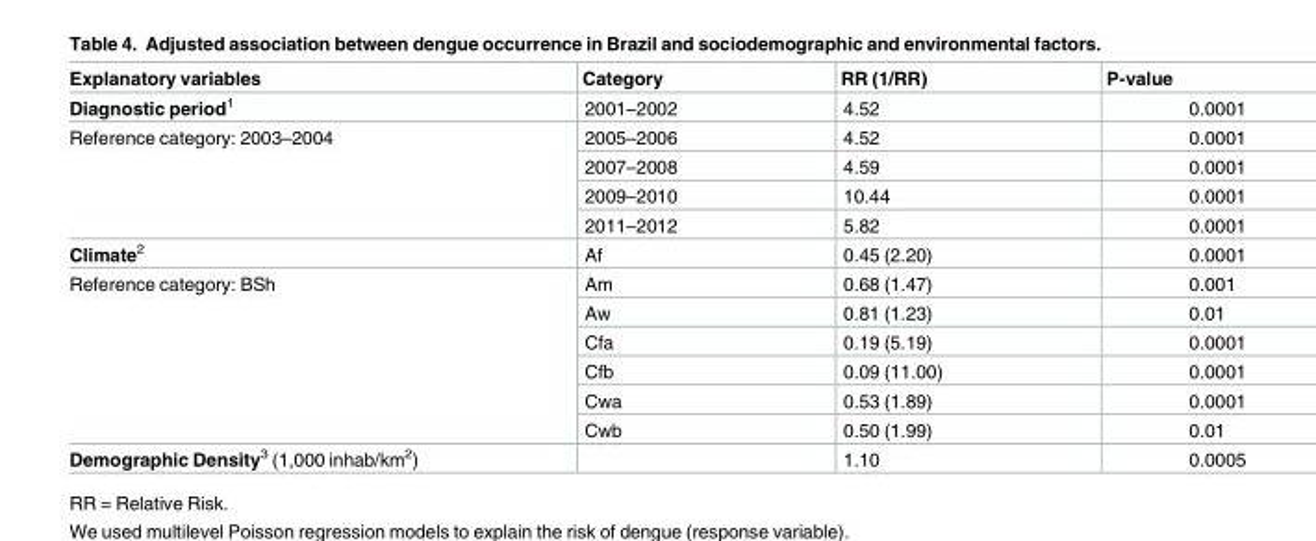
<table><thead><tr><td>Explanatory variables</td><td>Category</td><td>RR (1/RR)</td><td>P-value</td></tr></thead><tbody><tr><td>Diagnostic period<sup>1</sup></td><td>2001–2002</td><td>4.52</td><td>0.0001</td></tr><tr><td rowspan="4">Reference category: 2003–2004</td><td>2005–2006</td><td>4.52</td><td>0.0001</td></tr><tr><td>2007–2008</td><td>4.59</td><td>0.0001</td></tr><tr><td>2009–2010</td><td>10.44</td><td>0.0001</td></tr><tr><td>2011–2012</td><td>5.82</td><td>0.0001</td></tr><tr><td>Climate<sup>2</sup></td><td>Af</td><td>0.45 (2.20)</td><td>0.0001</td></tr><tr><td rowspan="6">Reference category: BSh</td><td>Am</td><td>0.68 (1.47)</td><td>0.001</td></tr><tr><td>Aw</td><td>0.81 (1.23)</td><td>0.01</td></tr><tr><td>Cfa</td><td>0.19 (5.19)</td><td>0.0001</td></tr><tr><td>Cfb</td><td>0.09 (11.00)</td><td>0.0001</td></tr><tr><td>Cwa</td><td>0.53 (1.89)</td><td>0.0001</td></tr><tr><td>Cwb</td><td>0.50 (1.99)</td><td>0.01</td></tr><tr><td>Demographic Density<sup>3</sup> (1,000 inhab/km<sup>2</sup>)</td><td></td><td>1.10</td><td>0.0005</td></tr></tbody></table>